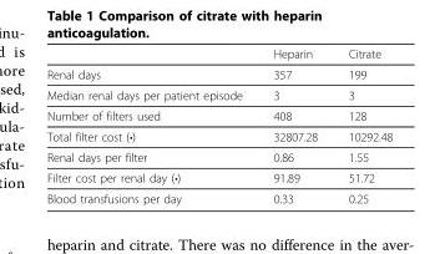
<table><thead><tr><td></td><td>Heparin</td><td>Citrate</td></tr></thead><tbody><tr><td>Renal days</td><td>357</td><td>199</td></tr><tr><td>Median renal days per patient episode</td><td>3</td><td>3</td></tr><tr><td>Number of filters used</td><td>408</td><td>128</td></tr><tr><td>Total filter cost (•)</td><td>32807.28</td><td>10292.48</td></tr><tr><td>Renal days per filter</td><td>0.86</td><td>1.55</td></tr><tr><td>Filter cost per renal day (•)</td><td>91.89</td><td>51.72</td></tr><tr><td>Blood transfusions per day</td><td>0.33</td><td>0.25</td></tr></tbody></table>